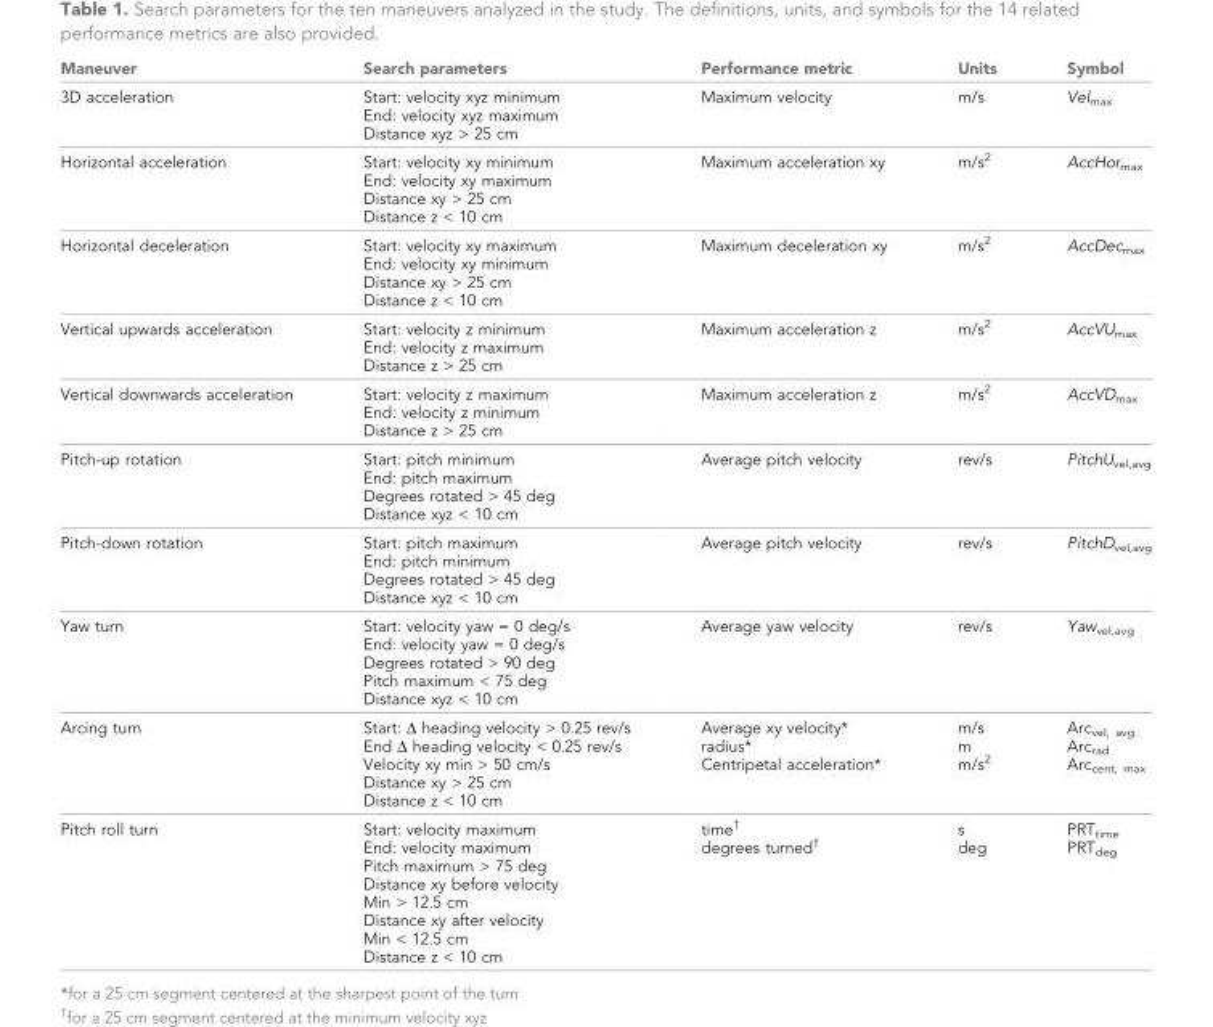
<table><thead><tr><td>Maneuver</td><td>Search parameters</td><td>Performance metric</td><td>Units</td><td>Symbol</td></tr></thead><tbody><tr><td>3D acceleration</td><td>Start: velocity xyz minimum End: velocity xyz maximum Distance xyz &gt; 25 cm</td><td>Maximum velocity</td><td>m/s</td><td>Vel<sub>max</sub></td></tr><tr><td>Horizontal acceleration</td><td>Start: velocity xy minimum End: velocity xy maximum Distance xy &gt; 25 cm Distance z &lt; 10 cm</td><td>Maximum acceleration xy</td><td>m/s<sup>2</sup></td><td>AccHor<sub>max</sub></td></tr><tr><td>Horizontal deceleration</td><td>Start: velocity xy maximum End: velocity xy minimum Distance xy &gt; 25 cm Distance z &lt; 10 cm</td><td>Maximum deceleration xy</td><td>m/s<sup>2</sup></td><td>AccDec<sub>max</sub></td></tr><tr><td>Vertical upwards acceleration</td><td>Start: velocity z minimum End: velocity z maximum Distance z &gt; 25 cm</td><td>Maximum acceleration z</td><td>m/s<sup>2</sup></td><td>AccVU<sub>max</sub></td></tr><tr><td>Vertical downwards acceleration</td><td>Start: velocity z maximum End: velocity z minimum Distance z &gt; 25 cm</td><td>Maximum acceleration z</td><td>m/s<sup>2</sup></td><td>AccVD<sub>max</sub></td></tr><tr><td>Pitch-up rotation</td><td>Start: pitch minimum End: pitch maximum Degrees rotated &gt; 45 deg Distance xyz &lt; 10 cm</td><td>Average pitch velocity</td><td>rev/s</td><td>PitchU<sub>vel,avg</sub></td></tr><tr><td>Pitch-down rotation</td><td>Start: pitch maximum End: pitch minimum Degrees rotated &gt; 45 deg Distance xyz &lt; 10 cm</td><td>Average pitch velocity</td><td>rev/s</td><td>PitchD<sub>vel,avg</sub></td></tr><tr><td>Yaw turn</td><td>Start: velocity yaw = 0 deg/s End: velocity yaw = 0 deg/s Degrees rotated &gt; 90 deg Pitch maximum &lt; 75 deg Distance xyz &lt; 10 cm</td><td>Average yaw velocity</td><td>rev/s</td><td>Yaw<sub>vel,avg</sub></td></tr><tr><td>Arcing turn</td><td>Start: Δ heading velocity &gt; 0.25 rev/s End Δ heading velocity &lt; 0.25 rev/s Velocity xy min &gt; 50 cm/s Distance xy &gt; 25 cm Distance z &lt; 10 cm</td><td>Average xy velocity* radius* Centripetal acceleration*</td><td>m/s m m/s<sup>2</sup></td><td>Arc<sub>vel, avg</sub> Arc<sub>rad</sub> Arc<sub>cent, max</sub></td></tr><tr><td>Pitch roll turn</td><td>Start: velocity maximum End: velocity maximum Pitch maximum &gt; 75 deg Distance xy before velocity Min &gt; 12.5 cm Distance xy after velocity Min &lt; 12.5 cm Distance z &lt; 10 cm</td><td>time<sup>†</sup> degrees turned<sup>†</sup></td><td>s deg</td><td>PRT<sub>time</sub> PRT<sub>deg</sub></td></tr></tbody></table>